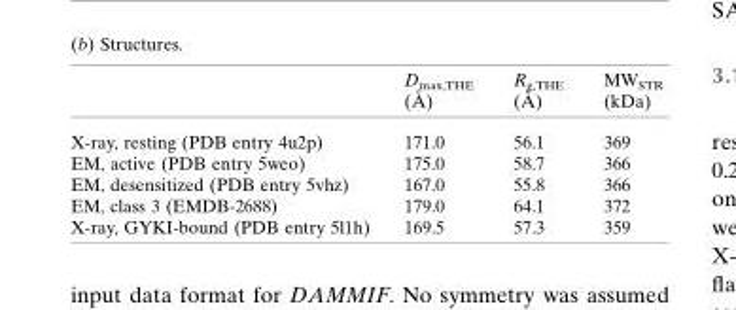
<table><thead><tr><td></td><td>Dmax,THE (A˚ )</td><td>Rg,THE (A˚ )</td><td>MW<sub>STR</sub> (kDa)</td></tr></thead><tbody><tr><td>X-ray, resting (PDB entry 4u2p)</td><td>171.0</td><td>56.1</td><td>369</td></tr><tr><td>EM, active (PDB entry 5weo)</td><td>175.0</td><td>58.7</td><td>366</td></tr><tr><td>EM, desensitized (PDB entry 5vhz)</td><td>167.0</td><td>55.8</td><td>366</td></tr><tr><td>EM, class 3 (EMDB-2688)</td><td>179.0</td><td>64.1</td><td>372</td></tr><tr><td>X-ray, GYKI-bound (PDB entry 5l1h)</td><td>169.5</td><td>57.3</td><td>359</td></tr></tbody></table>